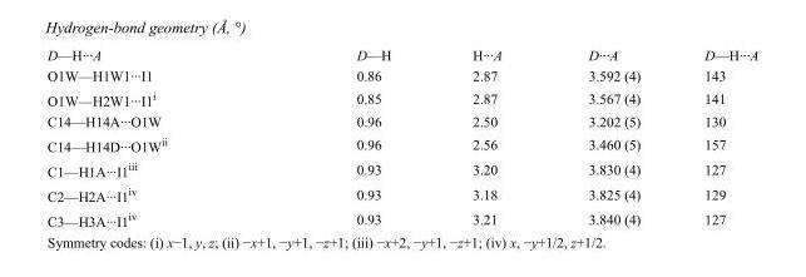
<table><tbody><tr><td>D—H···A</td><td>D—H</td><td>H···A</td><td>D···A</td><td>D—H···A</td></tr><tr><td>O1W—H1W1···I1</td><td>0.86</td><td>2.87</td><td>3.592 (4)</td><td>143</td></tr><tr><td>O1W—H2W1···I1<sup>i</sup></td><td>0.85</td><td>2.87</td><td>3.567 (4)</td><td>141</td></tr><tr><td>C14—H14A···O1W</td><td>0.96</td><td>2.50</td><td>3.202 (5)</td><td>130</td></tr><tr><td>C14—H14D···O1W<sup>ii</sup></td><td>0.96</td><td>2.56</td><td>3.460 (5)</td><td>157</td></tr><tr><td>C1—H1A···I1<sup>iii</sup></td><td>0.93</td><td>3.20</td><td>3.830 (4)</td><td>127</td></tr><tr><td>C2—H2A···I1<sup>iv</sup></td><td>0.93</td><td>3.18</td><td>3.825 (4)</td><td>129</td></tr><tr><td>C3—H3A···I1<sup>iv</sup></td><td>0.93</td><td>3.21</td><td>3.840 (4)</td><td>127</td></tr></tbody></table>